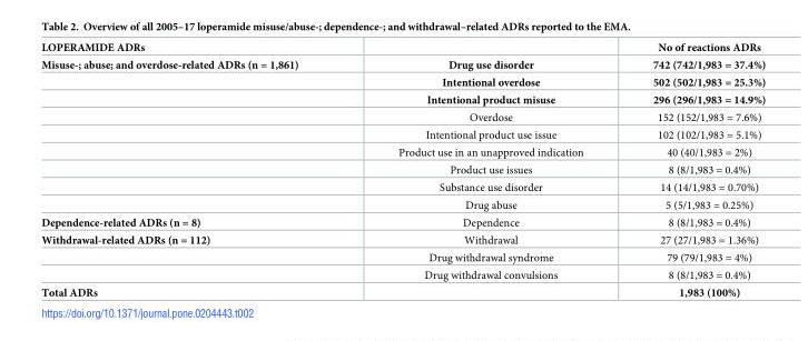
<table><thead><tr><td>LOPERAMIDE ADRs</td><td></td><td>No of reactions ADRs</td></tr></thead><tbody><tr><td rowspan="9">Misuse-; abuse; and overdose-related ADRs (n = 1,861)</td><td>Drug use disorder</td><td>742 (742/1,983 = 37.4%)</td></tr><tr><td>Intentional overdose</td><td>502 (502/1,983 = 25.3%)</td></tr><tr><td>Intentional product misuse</td><td>296 (296/1,983 = 14.9%)</td></tr><tr><td>Overdose</td><td>152 (152/1,983 = 7.6%)</td></tr><tr><td>Intentional product use issue</td><td>102 (102/1,983 = 5.1%)</td></tr><tr><td>Product use in an unapproved indication</td><td>40 (40/1,983 = 2%)</td></tr><tr><td>Product use issues</td><td>8 (8/1,983 = 0.4%)</td></tr><tr><td>Substance use disorder</td><td>14 (14/1,983 = 0.70%)</td></tr><tr><td>Drug abuse</td><td>5 (5/1,983 = 0.25%)</td></tr><tr><td>Dependence-related ADRs (n = 8)</td><td>Dependence</td><td>8 (8/1,983 = 0.4%)</td></tr><tr><td rowspan="3">Withdrawal-related ADRs (n = 112)</td><td>Withdrawal</td><td>27 (27/1,983 = 1.36%)</td></tr><tr><td>Drug withdrawal syndrome</td><td>79 (79/1,983 = 4%)</td></tr><tr><td>Drug withdrawal convulsions</td><td>8 (8/1,983 = 0.4%)</td></tr><tr><td>Total ADRs</td><td></td><td>1,983 (100%)</td></tr></tbody></table>